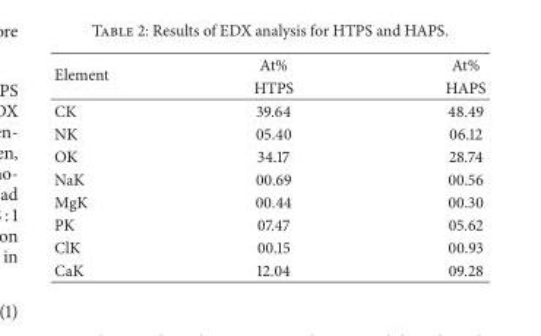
<table><thead><tr><td rowspan="2">Element</td><td rowspan="2">At% HTPS</td><td rowspan="2">At% HAPS</td></tr><tr></tr></thead><tbody><tr><td>CK</td><td>39.64</td><td>48.49</td></tr><tr><td>NK</td><td>05.40</td><td>06.12</td></tr><tr><td>OK</td><td>34.17</td><td>28.74</td></tr><tr><td>NaK</td><td>00.69</td><td>00.56</td></tr><tr><td>MgK</td><td>00.44</td><td>00.30</td></tr><tr><td>PK</td><td>07.47</td><td>05.62</td></tr><tr><td>ClK</td><td>00.15</td><td>00.93</td></tr><tr><td>CaK</td><td>12.04</td><td>09.28</td></tr></tbody></table>